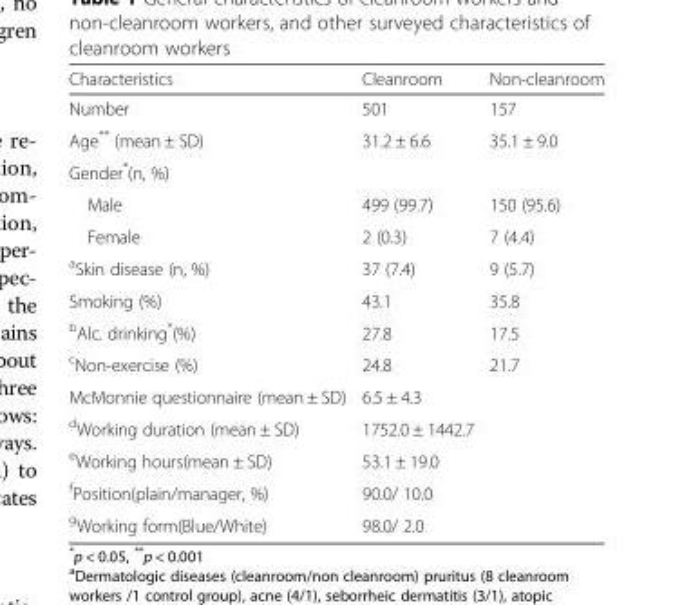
<table><thead><tr><td>Characteristics</td><td>Cleanroom</td><td>Non-cleanroom</td></tr></thead><tbody><tr><td>Number</td><td>501</td><td>157</td></tr><tr><td>Age** (mean ± SD)</td><td>31.2 ± 6.6</td><td>35.1 ± 9.0</td></tr><tr><td colspan="3">Gender*(n, %)</td></tr><tr><td>Male</td><td>499 (99.7)</td><td>150 (95.6)</td></tr><tr><td>Female</td><td>2 (0.3)</td><td>7 (4.4)</td></tr><tr><td><sup>a</sup>Skin disease (n, %)</td><td>37 (7.4)</td><td>9 (5.7)</td></tr><tr><td>Smoking (%)</td><td>43.1</td><td>35.8</td></tr><tr><td><sup>b</sup>Alc. drinking*(%)</td><td>27.8</td><td>17.5</td></tr><tr><td><sup>c</sup>Non-exercise (%)</td><td>24.8</td><td>21.7</td></tr><tr><td>McMonnie questionnaire (mean ± SD)</td><td>6.5 ± 4.3</td><td></td></tr><tr><td><sup>d</sup>Working duration (mean ± SD)</td><td>1752.0 ± 1442.7</td><td></td></tr><tr><td><sup>e</sup>Working hours(mean ± SD)</td><td>53.1 ± 19.0</td><td></td></tr><tr><td><sup>f</sup>Position(plain/manager, %)</td><td>90.0/ 10.0</td><td></td></tr><tr><td><sup>g</sup>Working form(Blue/White)</td><td>98.0/ 2.0</td><td></td></tr></tbody></table>